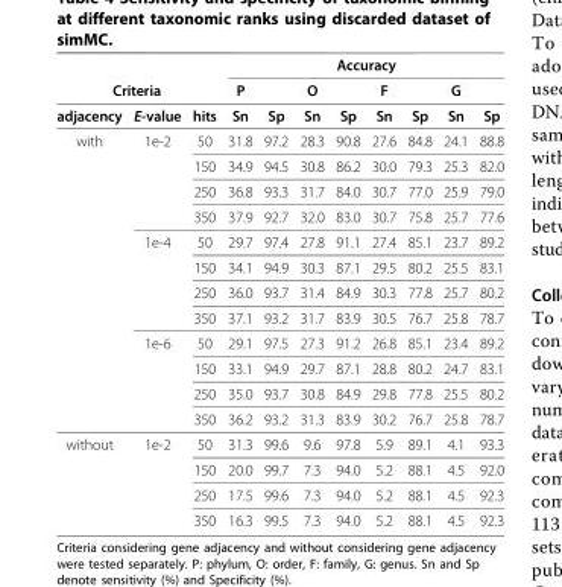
<table><thead><tr><td></td><td></td><td></td><td colspan="8">Accuracy</td></tr><tr><td colspan="3">Criteria</td><td>P</td><td></td><td>O</td><td></td><td>F</td><td></td><td>G</td><td></td></tr></thead><tbody><tr><td>adjacency</td><td>E-value</td><td>hits</td><td>Sn</td><td>Sp</td><td>Sn</td><td>Sp</td><td>Sn</td><td>Sp</td><td>Sn</td><td>Sp</td></tr><tr><td rowspan="12">with</td><td>1e-2</td><td>50</td><td>31.8</td><td>97.2</td><td>28.3</td><td>90.8</td><td>27.6</td><td>84.8</td><td>24.1</td><td>88.8</td></tr><tr><td></td><td>150</td><td>34.9</td><td>94.5</td><td>30.8</td><td>86.2</td><td>30.0</td><td>79.3</td><td>25.3</td><td>82.0</td></tr><tr><td></td><td>250</td><td>36.8</td><td>93.3</td><td>31.7</td><td>84.0</td><td>30.7</td><td>77.0</td><td>25.9</td><td>79.0</td></tr><tr><td></td><td>350</td><td>37.9</td><td>92.7</td><td>32.0</td><td>83.0</td><td>30.7</td><td>75.8</td><td>25.7</td><td>77.6</td></tr><tr><td>1e-4</td><td>50</td><td>29.7</td><td>97.4</td><td>27.8</td><td>91.1</td><td>27.4</td><td>85.1</td><td>23.7</td><td>89.2</td></tr><tr><td></td><td>150</td><td>34.1</td><td>94.9</td><td>30.3</td><td>87.1</td><td>29.5</td><td>80.2</td><td>25.5</td><td>83.1</td></tr><tr><td></td><td>250</td><td>36.0</td><td>93.7</td><td>31.4</td><td>84.9</td><td>30.3</td><td>77.8</td><td>25.7</td><td>80.2</td></tr><tr><td></td><td>350</td><td>37.1</td><td>93.2</td><td>31.7</td><td>83.9</td><td>30.5</td><td>76.7</td><td>25.8</td><td>78.7</td></tr><tr><td>1e-6</td><td>50</td><td>29.1</td><td>97.5</td><td>27.3</td><td>91.2</td><td>26.8</td><td>85.1</td><td>23.4</td><td>89.2</td></tr><tr><td></td><td>150</td><td>33.1</td><td>94.9</td><td>29.7</td><td>87.1</td><td>28.8</td><td>80.2</td><td>24.7</td><td>83.1</td></tr><tr><td></td><td>250</td><td>35.0</td><td>93.7</td><td>30.8</td><td>84.9</td><td>29.8</td><td>77.8</td><td>25.5</td><td>80.2</td></tr><tr><td></td><td>350</td><td>36.2</td><td>93.2</td><td>31.3</td><td>83.9</td><td>30.2</td><td>76.7</td><td>25.8</td><td>78.7</td></tr><tr><td rowspan="4">without</td><td>1e-2</td><td>50</td><td>31.3</td><td>99.6</td><td>9.6</td><td>97.8</td><td>5.9</td><td>89.1</td><td>4.1</td><td>93.3</td></tr><tr><td></td><td>150</td><td>20.0</td><td>99.7</td><td>7.3</td><td>94.0</td><td>5.2</td><td>88.1</td><td>4.5</td><td>92.0</td></tr><tr><td></td><td>250</td><td>17.5</td><td>99.6</td><td>7.3</td><td>94.0</td><td>5.2</td><td>88.1</td><td>4.5</td><td>92.3</td></tr><tr><td></td><td>350</td><td>16.3</td><td>99.5</td><td>7.3</td><td>94.0</td><td>5.2</td><td>88.1</td><td>4.5</td><td>92.3</td></tr></tbody></table>